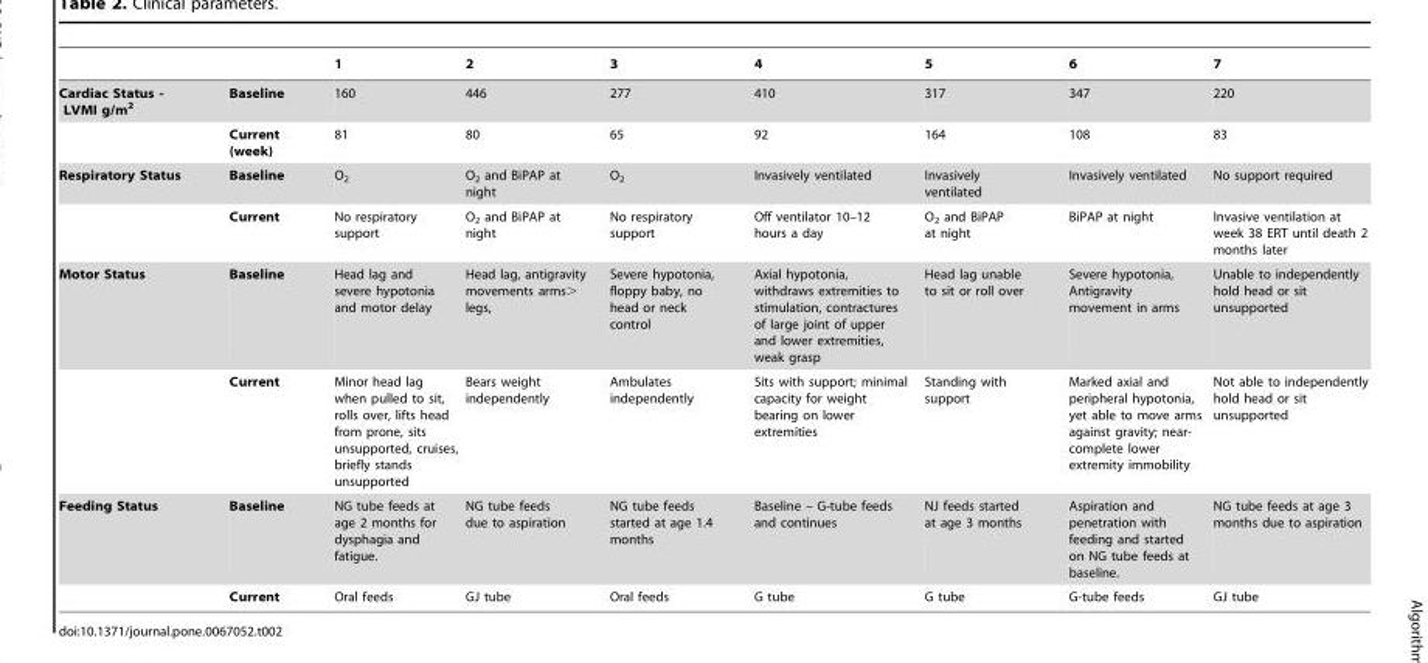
<table><thead><tr><td></td><td></td><td>1</td><td>2</td><td>3</td><td>4</td><td>5</td><td>6</td><td>7</td></tr></thead><tbody><tr><td rowspan="2">Cardiac Status - LVMI g/m<sup>2</sup></td><td>Baseline</td><td>160</td><td>446</td><td>277</td><td>410</td><td>317</td><td>347</td><td>220</td></tr><tr><td>Current (week)</td><td>81</td><td>80</td><td>65</td><td>92</td><td>164</td><td>108</td><td>83</td></tr><tr><td rowspan="2">Respiratory Status</td><td>Baseline</td><td>O<sub>2</sub></td><td>O<sub>2</sub> and BiPAP at night</td><td>O<sub>2</sub></td><td>Invasively ventilated</td><td>Invasively ventilated</td><td>Invasively ventilated</td><td>No support required</td></tr><tr><td>Current</td><td>No respiratory support</td><td>O<sub>2</sub> and BiPAP at night</td><td>No respiratory support</td><td>Off ventilator 10–12 hours a day</td><td>O<sub>2</sub> and BiPAP at night</td><td>BiPAP at night</td><td>Invasive ventilation at week 38 ERT until death 2 months later</td></tr><tr><td rowspan="2">Motor Status</td><td>Baseline</td><td>Head lag and severe hypotonia and motor delay</td><td>Head lag, antigravity movements arms&gt; legs,</td><td>Severe hypotonia, floppy baby, no head or neck control</td><td>Axial hypotonia, withdraws extremities to stimulation, contractures of large joint of upper and lower extremities, weak grasp</td><td>Head lag unable to sit or roll over</td><td>Severe hypotonia, Antigravity movement in arms</td><td>Unable to independently hold head or sit unsupported</td></tr><tr><td>Current</td><td>Minor head lag when pulled to sit, rolls over, lifts head from prone, sits unsupported, cruises, briefly stands unsupported</td><td>Bears weight independently</td><td>Ambulates independently</td><td>Sits with support; minimal capacity for weight bearing on lower extremities</td><td>Standing with support</td><td>Marked axial and peripheral hypotonia, yet able to move arms against gravity; near- complete lower extremity immobility</td><td>Not able to independently hold head or sit unsupported</td></tr><tr><td rowspan="2">Feeding Status</td><td>Baseline</td><td>NG tube feeds at age 2 months for dysphagia and fatigue.</td><td>NG tube feeds due to aspiration</td><td>NG tube feeds started at age 1.4 months</td><td>Baseline – G-tube feeds and continues</td><td>NJ feeds started at age 3 months</td><td>Aspiration and penetration with feeding and started on NG tube feeds at baseline.</td><td>NG tube feeds at age 3 months due to aspiration</td></tr><tr><td>Current</td><td>Oral feeds</td><td>GJ tube</td><td>Oral feeds</td><td>G tube</td><td>G tube</td><td>G-tube feeds</td><td>GJ tube</td></tr></tbody></table>